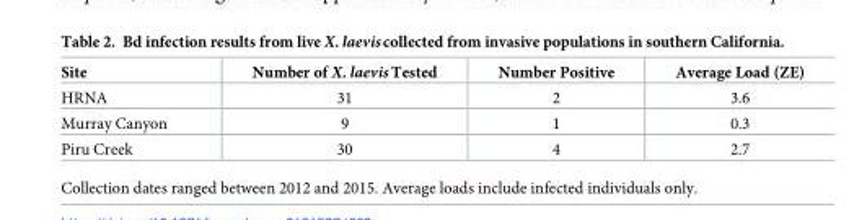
<table><thead><tr><td>Site</td><td>Number of X. laevisTested</td><td>Number Positive</td><td>Average Load (ZE)</td></tr></thead><tbody><tr><td>HRNA</td><td>31</td><td>2</td><td>3.6</td></tr><tr><td>Murray Canyon</td><td>9</td><td>1</td><td>0.3</td></tr><tr><td>Piru Creek</td><td>30</td><td>4</td><td>2.7</td></tr></tbody></table>